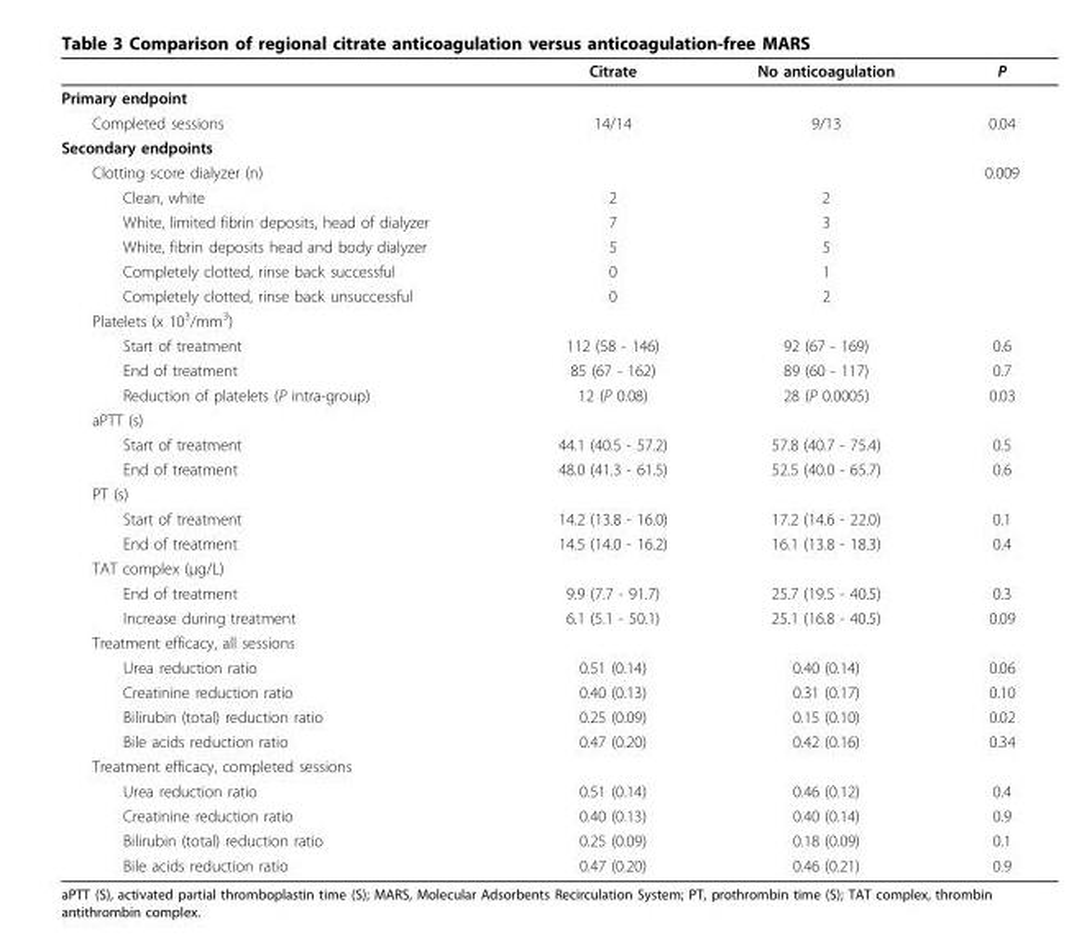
<table><thead><tr><td></td><td>Citrate</td><td>No anticoagulation</td><td>P</td></tr></thead><tbody><tr><td colspan="4">Primary endpoint</td></tr><tr><td>Completed sessions</td><td>14/14</td><td>9/13</td><td>0.04</td></tr><tr><td colspan="4">Secondary endpoints</td></tr><tr><td>Clotting score dialyzer (n)</td><td></td><td></td><td>0.009</td></tr><tr><td>Clean, white</td><td>2</td><td>2</td><td></td></tr><tr><td>White, limited fibrin deposits, head of dialyzer</td><td>7</td><td>3</td><td></td></tr><tr><td>White, fibrin deposits head and body dialyzer</td><td>5</td><td>5</td><td></td></tr><tr><td>Completely clotted, rinse back successful</td><td>0</td><td>1</td><td></td></tr><tr><td>Completely clotted, rinse back unsuccessful</td><td>0</td><td>2</td><td></td></tr><tr><td colspan="4">Platelets (x 10<sup>3</sup>/mm<sup>3</sup>)</td></tr><tr><td>Start of treatment</td><td>112 (58 - 146)</td><td>92 (67 - 169)</td><td>0.6</td></tr><tr><td>End of treatment</td><td>85 (67 - 162)</td><td>89 (60 - 117)</td><td>0.7</td></tr><tr><td>Reduction of platelets (P intra-group)</td><td>12 (P 0.08)</td><td>28 (P 0.0005)</td><td>0.03</td></tr><tr><td colspan="4">aPTT (s)</td></tr><tr><td>Start of treatment</td><td>44.1 (40.5 - 57.2)</td><td>57.8 (40.7 - 75.4)</td><td>0.5</td></tr><tr><td>End of treatment</td><td>48.0 (41.3 - 61.5)</td><td>52.5 (40.0 - 65.7)</td><td>0.6</td></tr><tr><td colspan="4">PT (s)</td></tr><tr><td>Start of treatment</td><td>14.2 (13.8 - 16.0)</td><td>17.2 (14.6 - 22.0)</td><td>0.1</td></tr><tr><td>End of treatment</td><td>14.5 (14.0 - 16.2)</td><td>16.1 (13.8 - 18.3)</td><td>0.4</td></tr><tr><td colspan="4">TAT complex (μg/L)</td></tr><tr><td>End of treatment</td><td>9.9 (7.7 - 91.7)</td><td>25.7 (19.5 - 40.5)</td><td>0.3</td></tr><tr><td>Increase during treatment</td><td>6.1 (5.1 - 50.1)</td><td>25.1 (16.8 - 40.5)</td><td>0.09</td></tr><tr><td colspan="4">Treatment efficacy, all sessions</td></tr><tr><td>Urea reduction ratio</td><td>0.51 (0.14)</td><td>0.40 (0.14)</td><td>0.06</td></tr><tr><td>Creatinine reduction ratio</td><td>0.40 (0.13)</td><td>0.31 (0.17)</td><td>0.10</td></tr><tr><td>Bilirubin (total) reduction ratio</td><td>0.25 (0.09)</td><td>0.15 (0.10)</td><td>0.02</td></tr><tr><td>Bile acids reduction ratio</td><td>0.47 (0.20)</td><td>0.42 (0.16)</td><td>0.34</td></tr><tr><td colspan="4">Treatment efficacy, completed sessions</td></tr><tr><td>Urea reduction ratio</td><td>0.51 (0.14)</td><td>0.46 (0.12)</td><td>0.4</td></tr><tr><td>Creatinine reduction ratio</td><td>0.40 (0.13)</td><td>0.40 (0.14)</td><td>0.9</td></tr><tr><td>Bilirubin (total) reduction ratio</td><td>0.25 (0.09)</td><td>0.18 (0.09)</td><td>0.1</td></tr><tr><td>Bile acids reduction ratio</td><td>0.47 (0.20)</td><td>0.46 (0.21)</td><td>0.9</td></tr></tbody></table>